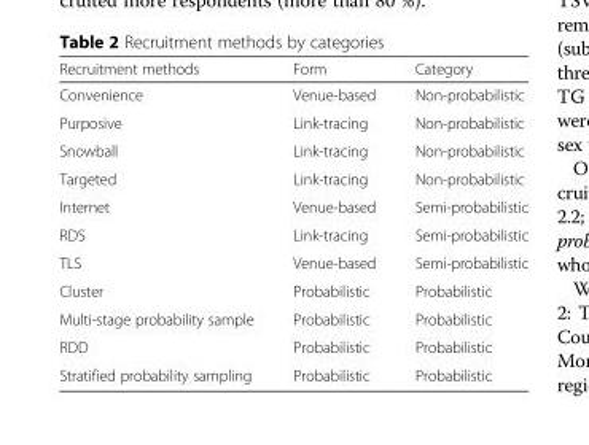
<table><thead><tr><td>Recruitment methods</td><td>Form</td><td>Category</td></tr></thead><tbody><tr><td>Convenience</td><td>Venue-based</td><td>Non-probabilistic</td></tr><tr><td>Purposive</td><td>Link-tracing</td><td>Non-probabilistic</td></tr><tr><td>Snowball</td><td>Link-tracing</td><td>Non-probabilistic</td></tr><tr><td>Targeted</td><td>Link-tracing</td><td>Non-probabilistic</td></tr><tr><td>Internet</td><td>Venue-based</td><td>Semi-probabilistic</td></tr><tr><td>RDS</td><td>Link-tracing</td><td>Semi-probabilistic</td></tr><tr><td>TLS</td><td>Venue-based</td><td>Semi-probabilistic</td></tr><tr><td>Cluster</td><td>Probabilistic</td><td>Probabilistic</td></tr><tr><td>Multi-stage probability sample</td><td>Probabilistic</td><td>Probabilistic</td></tr><tr><td>RDD</td><td>Probabilistic</td><td>Probabilistic</td></tr><tr><td>Stratified probability sampling</td><td>Probabilistic</td><td>Probabilistic</td></tr></tbody></table>